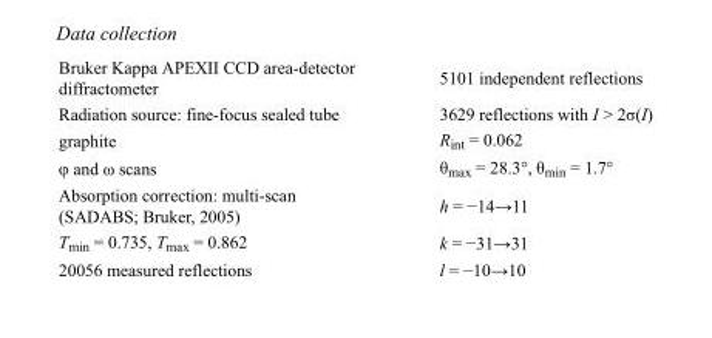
<table><tbody><tr><td>Bruker Kappa APEXII CCD area-detector diffractometer</td><td>5101 independent reflections</td></tr><tr><td>Radiation source: fine-focus sealed tube</td><td>3629 reflections with I &gt; 2σ(I)</td></tr><tr><td>graphite</td><td>R<sub>int</sub> = 0.062</td></tr><tr><td>φ and ω scans</td><td>θ<sub>max</sub> = 28.3°, θ<sub>min</sub> = 1.7°</td></tr><tr><td>Absorption correction: multi-scan (SADABS; Bruker, 2005)</td><td>h = −14→11</td></tr><tr><td>T<sub>min</sub> = 0.735, T<sub>max</sub> = 0.862</td><td>k = −31→31</td></tr><tr><td>20056 measured reflections</td><td>l = −10→10</td></tr></tbody></table>